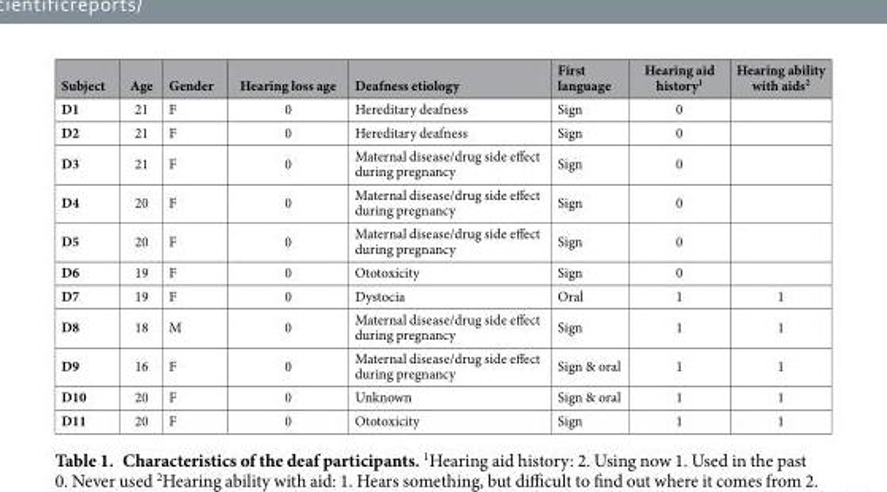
<table><thead><tr><td>Subject</td><td>Age</td><td>Gender</td><td>Hearing loss age</td><td>Deafness etiology</td><td>First language</td><td>Hearing aid history<sup>1</sup></td><td>Hearing ability with aids<sup>2</sup></td></tr></thead><tbody><tr><td>D1</td><td>21</td><td>F</td><td>0</td><td>Hereditary deafness</td><td>Sign</td><td>0</td><td></td></tr><tr><td>D2</td><td>21</td><td>F</td><td>0</td><td>Hereditary deafness</td><td>Sign</td><td>0</td><td></td></tr><tr><td>D3</td><td>21</td><td>F</td><td>0</td><td>Maternal disease/drug side effect during pregnancy</td><td>Sign</td><td>0</td><td></td></tr><tr><td>D4</td><td>20</td><td>F</td><td>0</td><td>Maternal disease/drug side effect during pregnancy</td><td>Sign</td><td>0</td><td></td></tr><tr><td>D5</td><td>20</td><td>F</td><td>0</td><td>Maternal disease/drug side effect during pregnancy</td><td>Sign</td><td>0</td><td></td></tr><tr><td>D6</td><td>19</td><td>F</td><td>0</td><td>Ototoxicity</td><td>Sign</td><td>0</td><td></td></tr><tr><td>D7</td><td>19</td><td>F</td><td>0</td><td>Dystocia</td><td>Oral</td><td>1</td><td>1</td></tr><tr><td>D8</td><td>18</td><td>M</td><td>0</td><td>Maternal disease/drug side effect during pregnancy</td><td>Sign</td><td>1</td><td>1</td></tr><tr><td>D9</td><td>16</td><td>F</td><td>0</td><td>Maternal disease/drug side effect during pregnancy</td><td>Sign &amp; oral</td><td>1</td><td>1</td></tr><tr><td>D10</td><td>20</td><td>F</td><td>0</td><td>Unknown</td><td>Sign &amp; oral</td><td>1</td><td>1</td></tr><tr><td>D11</td><td>20</td><td>F</td><td>0</td><td>Ototoxicity</td><td>Sign</td><td>1</td><td>1</td></tr></tbody></table>